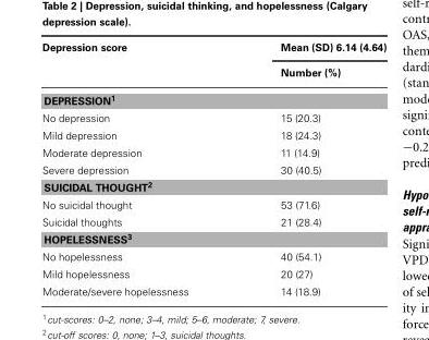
<table><thead><tr><td rowspan="2">Depression score</td><td rowspan="2">Mean (SD) 6.14 (4.64) Number (%)</td></tr><tr></tr></thead><tbody><tr><td colspan="2">DEPRESSION<sup>1</sup></td></tr><tr><td>No depression</td><td>15 (20.3)</td></tr><tr><td>Mild depression</td><td>18 (24.3)</td></tr><tr><td>Moderate depression</td><td>11 (14.9)</td></tr><tr><td>Severe depression</td><td>30 (40.5)</td></tr><tr><td colspan="2">SUICIDAL THOUGHT<sup>2</sup></td></tr><tr><td>No suicidal thought</td><td>53 (71.6)</td></tr><tr><td>Suicidal thoughts</td><td>21 (28.4)</td></tr><tr><td colspan="2">HOPELESSNESS<sup>3</sup></td></tr><tr><td>No hopelessness</td><td>40 (54.1)</td></tr><tr><td>Mild hopelessness</td><td>20 (27)</td></tr><tr><td>Moderate/severe hopelessness</td><td>14 (18.9)</td></tr></tbody></table>